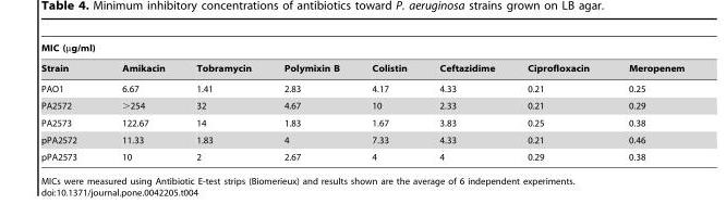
<table><thead><tr><td colspan="8">MIC (µg/ml)</td></tr><tr><td>Strain</td><td>Amikacin</td><td>Tobramycin</td><td>Polymixin B</td><td>Colistin</td><td>Ceftazidime</td><td>Ciprofloxacin</td><td>Meropenem</td></tr></thead><tbody><tr><td>PAO1</td><td>6.67</td><td>1.41</td><td>2.83</td><td>4.17</td><td>4.33</td><td>0.21</td><td>0.25</td></tr><tr><td>PA2572</td><td>&gt;254</td><td>32</td><td>4.67</td><td>10</td><td>2.33</td><td>0.21</td><td>0.29</td></tr><tr><td>PA2573</td><td>122.67</td><td>14</td><td>1.83</td><td>1.67</td><td>3.83</td><td>0.25</td><td>0.38</td></tr><tr><td>pPA2572</td><td>11.33</td><td>1.83</td><td>4</td><td>7.33</td><td>4.33</td><td>0.21</td><td>0.46</td></tr><tr><td>pPA2573</td><td>10</td><td>2</td><td>2.67</td><td>4</td><td>4</td><td>0.29</td><td>0.38</td></tr></tbody></table>